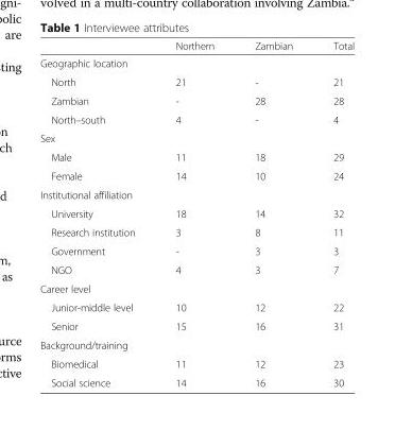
<table><thead><tr><td></td><td>Northern</td><td>Zambian</td><td>Total</td></tr></thead><tbody><tr><td colspan="4">Geographic location</td></tr><tr><td>North</td><td>21</td><td>-</td><td>21</td></tr><tr><td>Zambian</td><td>-</td><td>28</td><td>28</td></tr><tr><td>North–south</td><td>4</td><td>-</td><td>4</td></tr><tr><td colspan="4">Sex</td></tr><tr><td>Male</td><td>11</td><td>18</td><td>29</td></tr><tr><td>Female</td><td>14</td><td>10</td><td>24</td></tr><tr><td colspan="4">Institutional affiliation</td></tr><tr><td>University</td><td>18</td><td>14</td><td>32</td></tr><tr><td>Research institution</td><td>3</td><td>8</td><td>11</td></tr><tr><td>Government</td><td>-</td><td>3</td><td>3</td></tr><tr><td>NGO</td><td>4</td><td>3</td><td>7</td></tr><tr><td colspan="4">Career level</td></tr><tr><td>Junior-middle level</td><td>10</td><td>12</td><td>22</td></tr><tr><td>Senior</td><td>15</td><td>16</td><td>31</td></tr><tr><td colspan="4">Background/training</td></tr><tr><td>Biomedical</td><td>11</td><td>12</td><td>23</td></tr><tr><td>Social science</td><td>14</td><td>16</td><td>30</td></tr></tbody></table>